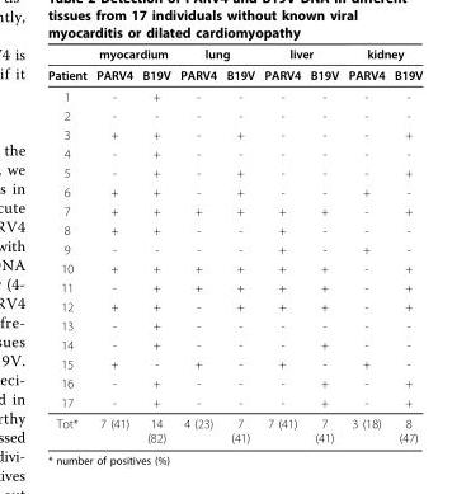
<table><thead><tr><td rowspan="2">Patient</td><td colspan="2">myocardium</td><td colspan="2">lung</td><td colspan="2">liver</td><td colspan="2">kidney</td></tr><tr><td>PARV4</td><td>B19V</td><td>PARV4</td><td>B19V</td><td>PARV4</td><td>B19V</td><td>PARV4</td><td>B19V</td></tr></thead><tbody><tr><td>1</td><td>-</td><td>+</td><td>-</td><td>-</td><td>-</td><td>-</td><td>-</td><td>-</td></tr><tr><td>2</td><td>-</td><td>-</td><td>-</td><td>-</td><td>-</td><td>-</td><td>-</td><td>-</td></tr><tr><td>3</td><td>+</td><td>+</td><td>-</td><td>+</td><td>-</td><td>-</td><td>-</td><td>+</td></tr><tr><td>4</td><td>-</td><td>+</td><td>-</td><td>-</td><td>-</td><td>-</td><td>-</td><td>-</td></tr><tr><td>5</td><td>-</td><td>+</td><td>-</td><td>+</td><td>-</td><td>-</td><td>-</td><td>+</td></tr><tr><td>6</td><td>+</td><td>+</td><td>-</td><td>+</td><td>-</td><td>-</td><td>+</td><td>-</td></tr><tr><td>7</td><td>+</td><td>+</td><td>+</td><td>+</td><td>+</td><td>+</td><td>-</td><td>+</td></tr><tr><td>8</td><td>+</td><td>+</td><td>-</td><td>-</td><td>+</td><td>-</td><td>-</td><td>-</td></tr><tr><td>9</td><td>-</td><td>-</td><td>-</td><td>-</td><td>+</td><td>-</td><td>+</td><td>-</td></tr><tr><td>10</td><td>+</td><td>+</td><td>+</td><td>+</td><td>+</td><td>+</td><td>-</td><td>+</td></tr><tr><td>11</td><td>-</td><td>+</td><td>+</td><td>+</td><td>+</td><td>+</td><td>-</td><td>+</td></tr><tr><td>12</td><td>+</td><td>+</td><td>-</td><td>+</td><td>+</td><td>+</td><td>-</td><td>+</td></tr><tr><td>13</td><td>-</td><td>+</td><td>-</td><td>-</td><td>-</td><td>-</td><td>-</td><td>-</td></tr><tr><td>14</td><td>-</td><td>+</td><td>-</td><td>-</td><td>-</td><td>+</td><td>-</td><td>-</td></tr><tr><td>15</td><td>+</td><td>-</td><td>+</td><td>-</td><td>+</td><td>-</td><td>+</td><td>-</td></tr><tr><td>16</td><td>-</td><td>+</td><td>-</td><td>-</td><td>-</td><td>+</td><td>-</td><td>+</td></tr><tr><td>17</td><td>-</td><td>+</td><td>-</td><td>-</td><td>-</td><td>+</td><td>-</td><td>+</td></tr><tr><td>Tot*</td><td>7 (41)</td><td>14 (82)</td><td>4 (23)</td><td>7 (41)</td><td>7 (41)</td><td>7 (41)</td><td>3 (18)</td><td>8 (47)</td></tr></tbody></table>